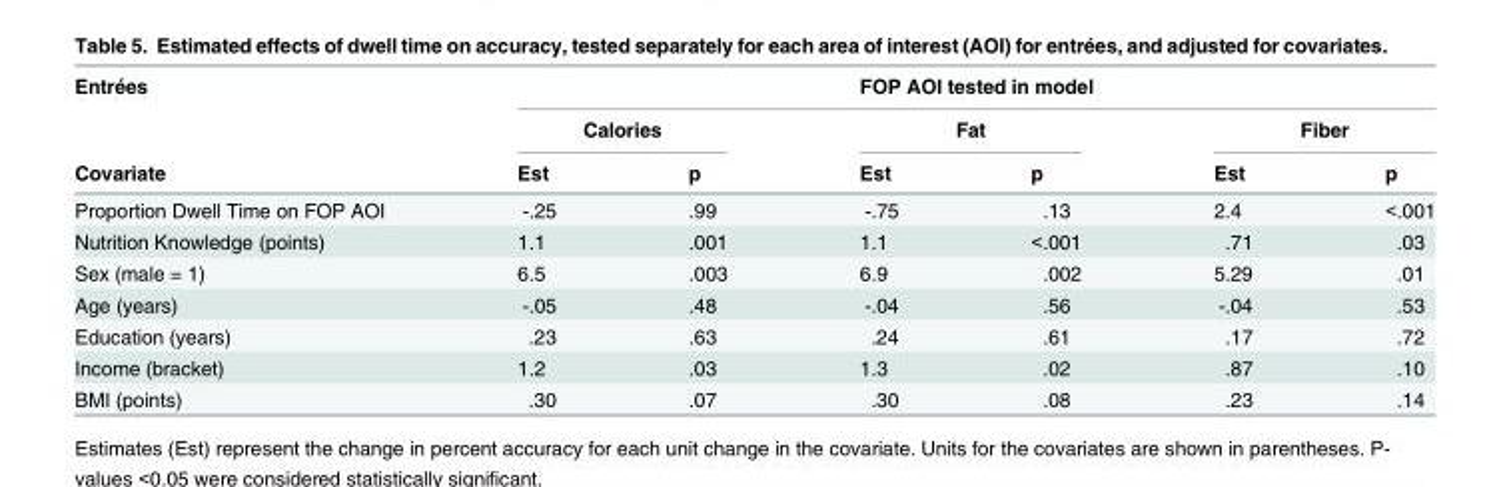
<table><thead><tr><td rowspan="3">Entrées Covariate</td><td colspan="6">FOP AOI tested in model</td></tr><tr><td colspan="2">Calories</td><td colspan="2">Fat</td><td colspan="2">Fiber</td></tr><tr><td>Est</td><td>p</td><td>Est</td><td>p</td><td>Est</td><td>p</td></tr></thead><tbody><tr><td>Proportion Dwell Time on FOP AOI</td><td>-.25</td><td>.99</td><td>-.75</td><td>.13</td><td>2.4</td><td>&lt;.001</td></tr><tr><td>Nutrition Knowledge (points)</td><td>1.1</td><td>.001</td><td>1.1</td><td>&lt;.001</td><td>.71</td><td>.03</td></tr><tr><td>Sex (male = 1)</td><td>6.5</td><td>.003</td><td>6.9</td><td>.002</td><td>5.29</td><td>.01</td></tr><tr><td>Age (years)</td><td>-.05</td><td>.48</td><td>-.04</td><td>.56</td><td>-.04</td><td>.53</td></tr><tr><td>Education (years)</td><td>.23</td><td>.63</td><td>.24</td><td>.61</td><td>.17</td><td>.72</td></tr><tr><td>Income (bracket)</td><td>1.2</td><td>.03</td><td>1.3</td><td>.02</td><td>.87</td><td>.10</td></tr><tr><td>BMI (points)</td><td>.30</td><td>.07</td><td>.30</td><td>.08</td><td>.23</td><td>.14</td></tr></tbody></table>